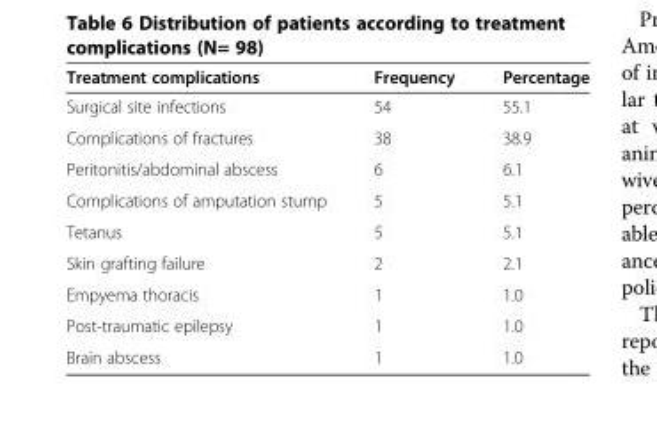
<table><thead><tr><td>Treatment complications</td><td>Frequency</td><td>Percentage</td></tr></thead><tbody><tr><td>Surgical site infections</td><td>54</td><td>55.1</td></tr><tr><td>Complications of fractures</td><td>38</td><td>38.9</td></tr><tr><td>Peritonitis/abdominal abscess</td><td>6</td><td>6.1</td></tr><tr><td>Complications of amputation stump</td><td>5</td><td>5.1</td></tr><tr><td>Tetanus</td><td>5</td><td>5.1</td></tr><tr><td>Skin grafting failure</td><td>2</td><td>2.1</td></tr><tr><td>Empyema thoracis</td><td>1</td><td>1.0</td></tr><tr><td>Post-traumatic epilepsy</td><td>1</td><td>1.0</td></tr><tr><td>Brain abscess</td><td>1</td><td>1.0</td></tr></tbody></table>